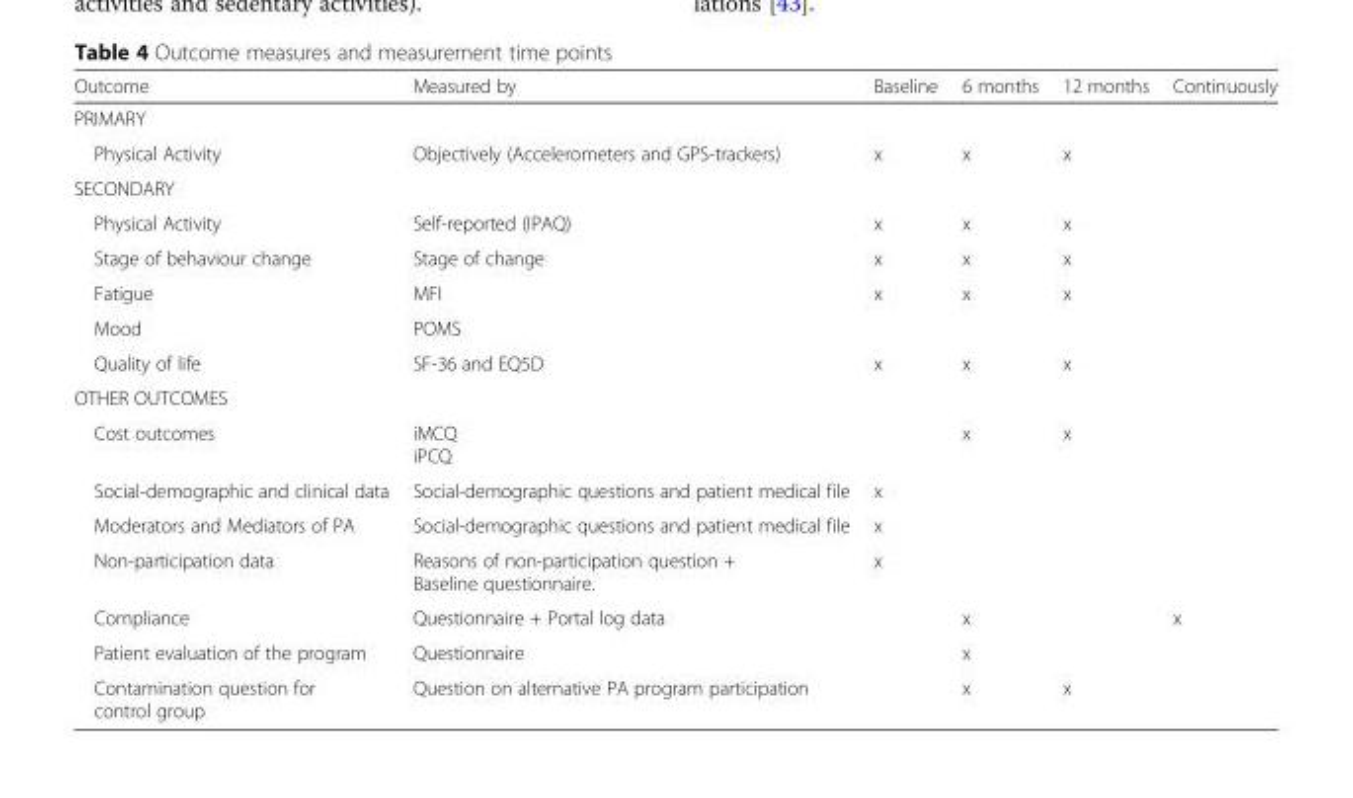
<table><thead><tr><td>Outcome</td><td>Measured by</td><td>Baseline</td><td>6 months</td><td>12 months</td><td>Continuously</td></tr></thead><tbody><tr><td colspan="6">PRIMARY</td></tr><tr><td>Physical Activity</td><td>Objectively (Accelerometers and GPS-trackers)</td><td>x</td><td>x</td><td>x</td><td></td></tr><tr><td colspan="6">SECONDARY</td></tr><tr><td>Physical Activity</td><td>Self-reported (IPAQ)</td><td>x</td><td>x</td><td>x</td><td></td></tr><tr><td>Stage of behaviour change</td><td>Stage of change</td><td>x</td><td>x</td><td>x</td><td></td></tr><tr><td>Fatigue</td><td>MFI</td><td>x</td><td>x</td><td>x</td><td></td></tr><tr><td>Mood</td><td>POMS</td><td></td><td></td><td></td><td></td></tr><tr><td>Quality of life</td><td>SF-36 and EQ5D</td><td>x</td><td>x</td><td>x</td><td></td></tr><tr><td colspan="6">OTHER OUTCOMES</td></tr><tr><td>Cost outcomes</td><td>iMCQ iPCQ</td><td></td><td>x</td><td>x</td><td></td></tr><tr><td>Social-demographic and clinical data</td><td>Social-demographic questions and patient medical file</td><td>x</td><td></td><td></td><td></td></tr><tr><td>Moderators and Mediators of PA</td><td>Social-demographic questions and patient medical file</td><td>x</td><td></td><td></td><td></td></tr><tr><td>Non-participation data</td><td>Reasons of non-participation question + Baseline questionnaire.</td><td>x</td><td></td><td></td><td></td></tr><tr><td>Compliance</td><td>Questionnaire + Portal log data</td><td></td><td>x</td><td></td><td>x</td></tr><tr><td>Patient evaluation of the program</td><td>Questionnaire</td><td></td><td>x</td><td></td><td></td></tr><tr><td>Contamination question for control group</td><td>Question on alternative PA program participation</td><td></td><td>x</td><td>x</td><td></td></tr></tbody></table>